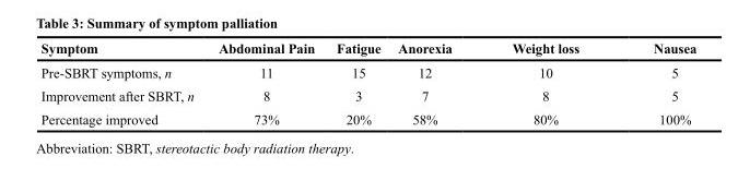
<table><thead><tr><td>Symptom</td><td>Abdominal Pain</td><td>Fatigue</td><td>Anorexia</td><td>Weight loss</td><td>Nausea</td></tr></thead><tbody><tr><td>Pre-SBRT symptoms, n</td><td>11</td><td>15</td><td>12</td><td>10</td><td>5</td></tr><tr><td>Improvement after SBRT, n</td><td>8</td><td>3</td><td>7</td><td>8</td><td>5</td></tr><tr><td>Percentage improved</td><td>73%</td><td>20%</td><td>58%</td><td>80%</td><td>100%</td></tr></tbody></table>